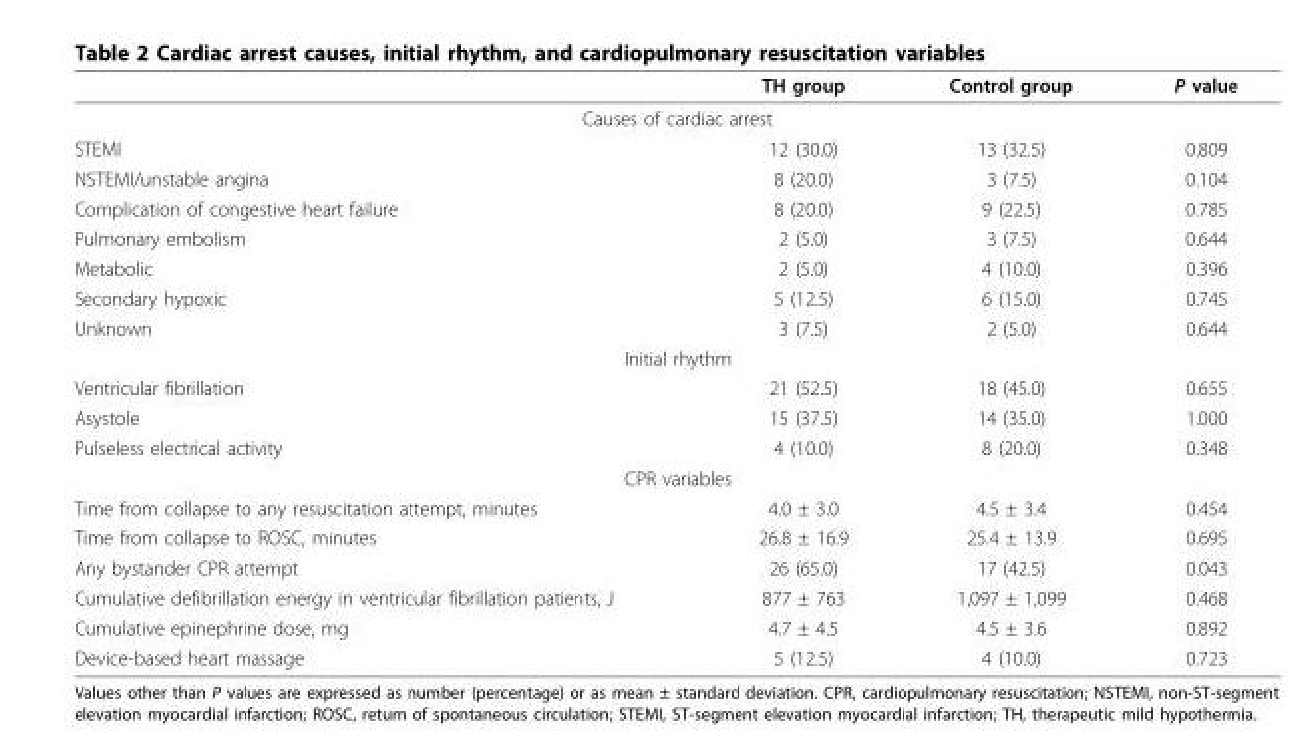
<table><thead><tr><td></td><td>TH group</td><td>Control group</td><td>P value</td></tr></thead><tbody><tr><td colspan="4">Causes of cardiac arrest</td></tr><tr><td>STEMI</td><td>12 (30.0)</td><td>13 (32.5)</td><td>0.809</td></tr><tr><td>NSTEMI/unstable angina</td><td>8 (20.0)</td><td>3 (7.5)</td><td>0.104</td></tr><tr><td>Complication of congestive heart failure</td><td>8 (20.0)</td><td>9 (22.5)</td><td>0.785</td></tr><tr><td>Pulmonary embolism</td><td>2 (5.0)</td><td>3 (7.5)</td><td>0.644</td></tr><tr><td>Metabolic</td><td>2 (5.0)</td><td>4 (10.0)</td><td>0.396</td></tr><tr><td>Secondary hypoxic</td><td>5 (12.5)</td><td>6 (15.0)</td><td>0.745</td></tr><tr><td>Unknown</td><td>3 (7.5)</td><td>2 (5.0)</td><td>0.644</td></tr><tr><td colspan="4">Initial rhythm</td></tr><tr><td>Ventricular fibrillation</td><td>21 (52.5)</td><td>18 (45.0)</td><td>0.655</td></tr><tr><td>Asystole</td><td>15 (37.5)</td><td>14 (35.0)</td><td>1.000</td></tr><tr><td>Pulseless electrical activity</td><td>4 (10.0)</td><td>8 (20.0)</td><td>0.348</td></tr><tr><td colspan="4">CPR variables</td></tr><tr><td>Time from collapse to any resuscitation attempt, minutes</td><td>4.0 ± 3.0</td><td>4.5 ± 3.4</td><td>0.454</td></tr><tr><td>Time from collapse to ROSC, minutes</td><td>26.8 ± 16.9</td><td>25.4 ± 13.9</td><td>0.695</td></tr><tr><td>Any bystander CPR attempt</td><td>26 (65.0)</td><td>17 (42.5)</td><td>0.043</td></tr><tr><td>Cumulative defibrillation energy in ventricular fibrillation patients, J</td><td>877 ± 763</td><td>1,097 ± 1,099</td><td>0.468</td></tr><tr><td>Cumulative epinephrine dose, mg</td><td>4.7 ± 4.5</td><td>4.5 ± 3.6</td><td>0.892</td></tr><tr><td>Device-based heart massage</td><td>5 (12.5)</td><td>4 (10.0)</td><td>0.723</td></tr></tbody></table>